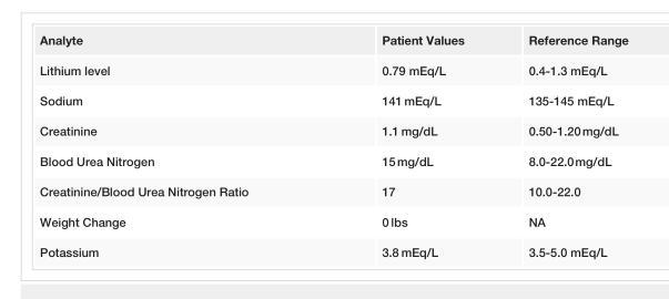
<table><tbody><tr><td>Analyte</td><td>Patient Values</td><td>Reference Range</td></tr><tr><td>Lithium level</td><td>0.79 mEq/L</td><td>0.4-1.3 mEq/L</td></tr><tr><td>Sodium</td><td>141 mEq/L</td><td>135-145 mEq/L</td></tr><tr><td>Creatinine</td><td>1.1 mg/dL</td><td>0.50-1.20 mg/dL</td></tr><tr><td>Blood Urea Nitrogen</td><td>15 mg/dL</td><td>8.0-22.0 mg/dL</td></tr><tr><td>Creatinine/Blood Urea Nitrogen Ratio</td><td>17</td><td>10.0-22.0</td></tr><tr><td>Weight Change</td><td>0 lbs</td><td>NA</td></tr><tr><td>Potassium</td><td>3.8 mEq/L</td><td>3.5-5.0 mEq/L</td></tr></tbody></table>